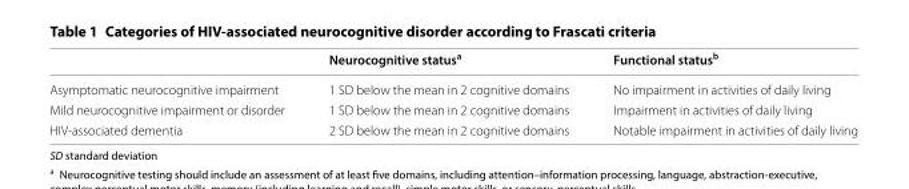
<table><thead><tr><td></td><td>Neurocognitive status<sup>a</sup></td><td>Functional status<sup>b</sup></td></tr></thead><tbody><tr><td>Asymptomatic neurocognitive impairment</td><td>1 SD below the mean in 2 cognitive domains</td><td>No impairment in activities of daily living</td></tr><tr><td>Mild neurocognitive impairment or disorder</td><td>1 SD below the mean in 2 cognitive domains</td><td>Impairment in activities of daily living</td></tr><tr><td>HIV-associated dementia</td><td>2 SD below the mean in 2 cognitive domains</td><td>Notable impairment in activities of daily living</td></tr></tbody></table>